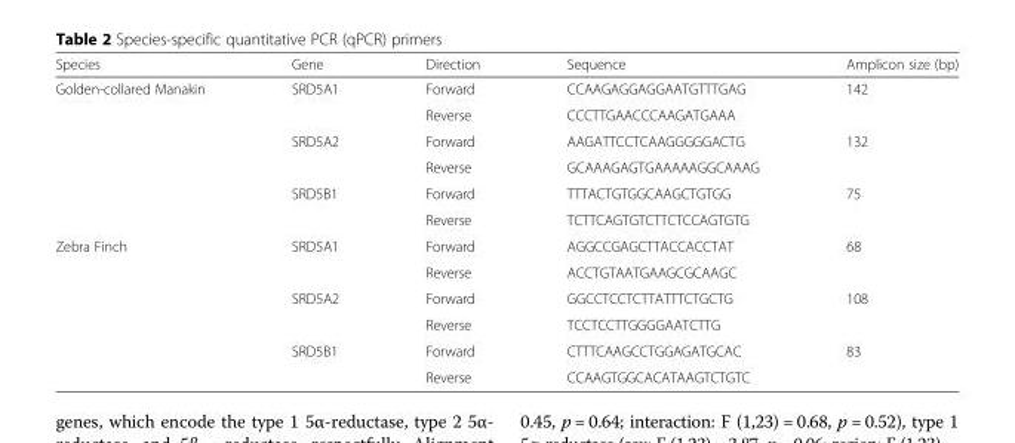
<table><thead><tr><td>Species</td><td>Gene</td><td>Direction</td><td>Sequence</td><td>Amplicon size (bp)</td></tr></thead><tbody><tr><td rowspan="6">Golden-collared Manakin</td><td rowspan="2">SRD5A1</td><td>Forward</td><td>CCAAGAGGAGGAATGTTTGAG</td><td rowspan="2">142</td></tr><tr><td>Reverse</td><td>CCCTTGAACCCAAGATGAAA</td></tr><tr><td rowspan="2">SRD5A2</td><td>Forward</td><td>AAGATTCCTCAAGGGGGACTG</td><td rowspan="2">132</td></tr><tr><td>Reverse</td><td>GCAAAGAGTGAAAAAGGCAAAG</td></tr><tr><td rowspan="2">SRD5B1</td><td>Forward</td><td>TTTACTGTGGCAAGCTGTGG</td><td rowspan="2">75</td></tr><tr><td>Reverse</td><td>TCTTCAGTGTCTTCTCCAGTGTG</td></tr><tr><td rowspan="6">Zebra Finch</td><td rowspan="2">SRD5A1</td><td>Forward</td><td>AGGCCGAGCTTACCACCTAT</td><td rowspan="2">68</td></tr><tr><td>Reverse</td><td>ACCTGTAATGAAGCGCAAGC</td></tr><tr><td rowspan="2">SRD5A2</td><td>Forward</td><td>GGCCTCCTCTTATTTCTGCTG</td><td rowspan="2">108</td></tr><tr><td>Reverse</td><td>TCCTCCTTGGGGAATCTTG</td></tr><tr><td rowspan="2">SRD5B1</td><td>Forward</td><td>CTTTCAAGCCTGGAGATGCAC</td><td rowspan="2">83</td></tr><tr><td>Reverse</td><td>CCAAGTGGCACATAAGTCTGTC</td></tr></tbody></table>